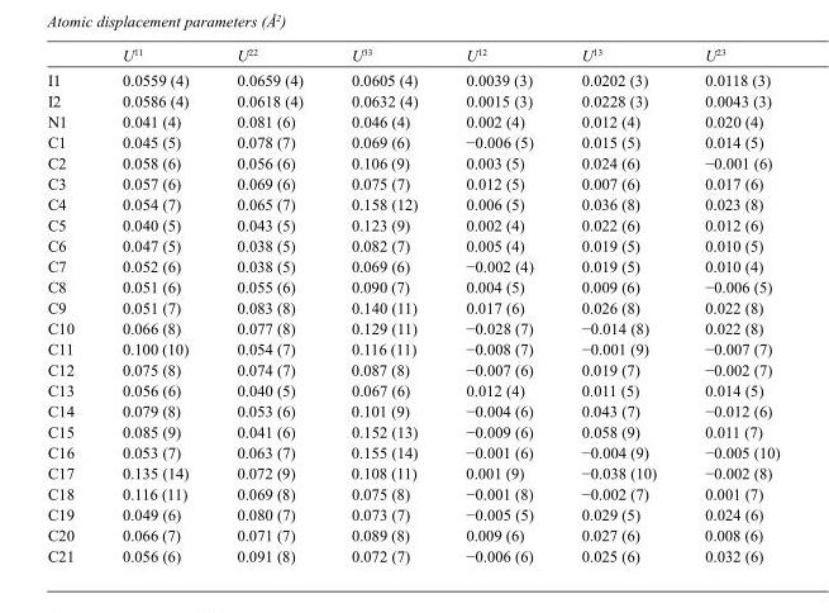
<table><thead><tr><td></td><td>U<sup>11</sup></td><td>U<sup>22</sup></td><td>U<sup>33</sup></td><td>U<sup>12</sup></td><td>U<sup>13</sup></td><td>U<sup>23</sup></td></tr></thead><tbody><tr><td>I1</td><td>0.0559 (4)</td><td>0.0659 (4)</td><td>0.0605 (4)</td><td>0.0039 (3)</td><td>0.0202 (3)</td><td>0.0118 (3)</td></tr><tr><td>I2</td><td>0.0586 (4)</td><td>0.0618 (4)</td><td>0.0632 (4)</td><td>0.0015 (3)</td><td>0.0228 (3)</td><td>0.0043 (3)</td></tr><tr><td>N1</td><td>0.041 (4)</td><td>0.081 (6)</td><td>0.046 (4)</td><td>0.002 (4)</td><td>0.012 (4)</td><td>0.020 (4)</td></tr><tr><td>C1</td><td>0.045 (5)</td><td>0.078 (7)</td><td>0.069 (6)</td><td>−0.006 (5)</td><td>0.015 (5)</td><td>0.014 (5)</td></tr><tr><td>C2</td><td>0.058 (6)</td><td>0.056 (6)</td><td>0.106 (9)</td><td>0.003 (5)</td><td>0.024 (6)</td><td>−0.001 (6)</td></tr><tr><td>C3</td><td>0.057 (6)</td><td>0.069 (6)</td><td>0.075 (7)</td><td>0.012 (5)</td><td>0.007 (6)</td><td>0.017 (6)</td></tr><tr><td>C4</td><td>0.054 (7)</td><td>0.065 (7)</td><td>0.158 (12)</td><td>0.006 (5)</td><td>0.036 (8)</td><td>0.023 (8)</td></tr><tr><td>C5</td><td>0.040 (5)</td><td>0.043 (5)</td><td>0.123 (9)</td><td>0.002 (4)</td><td>0.022 (6)</td><td>0.012 (6)</td></tr><tr><td>C6</td><td>0.047 (5)</td><td>0.038 (5)</td><td>0.082 (7)</td><td>0.005 (4)</td><td>0.019 (5)</td><td>0.010 (5)</td></tr><tr><td>C7</td><td>0.052 (6)</td><td>0.038 (5)</td><td>0.069 (6)</td><td>−0.002 (4)</td><td>0.019 (5)</td><td>0.010 (4)</td></tr><tr><td>C8</td><td>0.051 (6)</td><td>0.055 (6)</td><td>0.090 (7)</td><td>0.004 (5)</td><td>0.009 (6)</td><td>−0.006 (5)</td></tr><tr><td>C9</td><td>0.051 (7)</td><td>0.083 (8)</td><td>0.140 (11)</td><td>0.017 (6)</td><td>0.026 (8)</td><td>0.022 (8)</td></tr><tr><td>C10</td><td>0.066 (8)</td><td>0.077 (8)</td><td>0.129 (11)</td><td>−0.028 (7)</td><td>−0.014 (8)</td><td>0.022 (8)</td></tr><tr><td>C11</td><td>0.100 (10)</td><td>0.054 (7)</td><td>0.116 (11)</td><td>−0.008 (7)</td><td>−0.001 (9)</td><td>−0.007 (7)</td></tr><tr><td>C12</td><td>0.075 (8)</td><td>0.074 (7)</td><td>0.087 (8)</td><td>−0.007 (6)</td><td>0.019 (7)</td><td>−0.002 (7)</td></tr><tr><td>C13</td><td>0.056 (6)</td><td>0.040 (5)</td><td>0.067 (6)</td><td>0.012 (4)</td><td>0.011 (5)</td><td>0.014 (5)</td></tr><tr><td>C14</td><td>0.079 (8)</td><td>0.053 (6)</td><td>0.101 (9)</td><td>−0.004 (6)</td><td>0.043 (7)</td><td>−0.012 (6)</td></tr><tr><td>C15</td><td>0.085 (9)</td><td>0.041 (6)</td><td>0.152 (13)</td><td>−0.009 (6)</td><td>0.058 (9)</td><td>0.011 (7)</td></tr><tr><td>C16</td><td>0.053 (7)</td><td>0.063 (7)</td><td>0.155 (14)</td><td>−0.001 (6)</td><td>−0.004 (9)</td><td>−0.005 (10)</td></tr><tr><td>C17</td><td>0.135 (14)</td><td>0.072 (9)</td><td>0.108 (11)</td><td>0.001 (9)</td><td>−0.038 (10)</td><td>−0.002 (8)</td></tr><tr><td>C18</td><td>0.116 (11)</td><td>0.069 (8)</td><td>0.075 (8)</td><td>−0.001 (8)</td><td>−0.002 (7)</td><td>0.001 (7)</td></tr><tr><td>C19</td><td>0.049 (6)</td><td>0.080 (7)</td><td>0.073 (7)</td><td>−0.005 (5)</td><td>0.029 (5)</td><td>0.024 (6)</td></tr><tr><td>C20</td><td>0.066 (7)</td><td>0.071 (7)</td><td>0.089 (8)</td><td>0.009 (6)</td><td>0.027 (6)</td><td>0.008 (6)</td></tr><tr><td>C21</td><td>0.056 (6)</td><td>0.091 (8)</td><td>0.072 (7)</td><td>−0.006 (6)</td><td>0.025 (6)</td><td>0.032 (6)</td></tr></tbody></table>